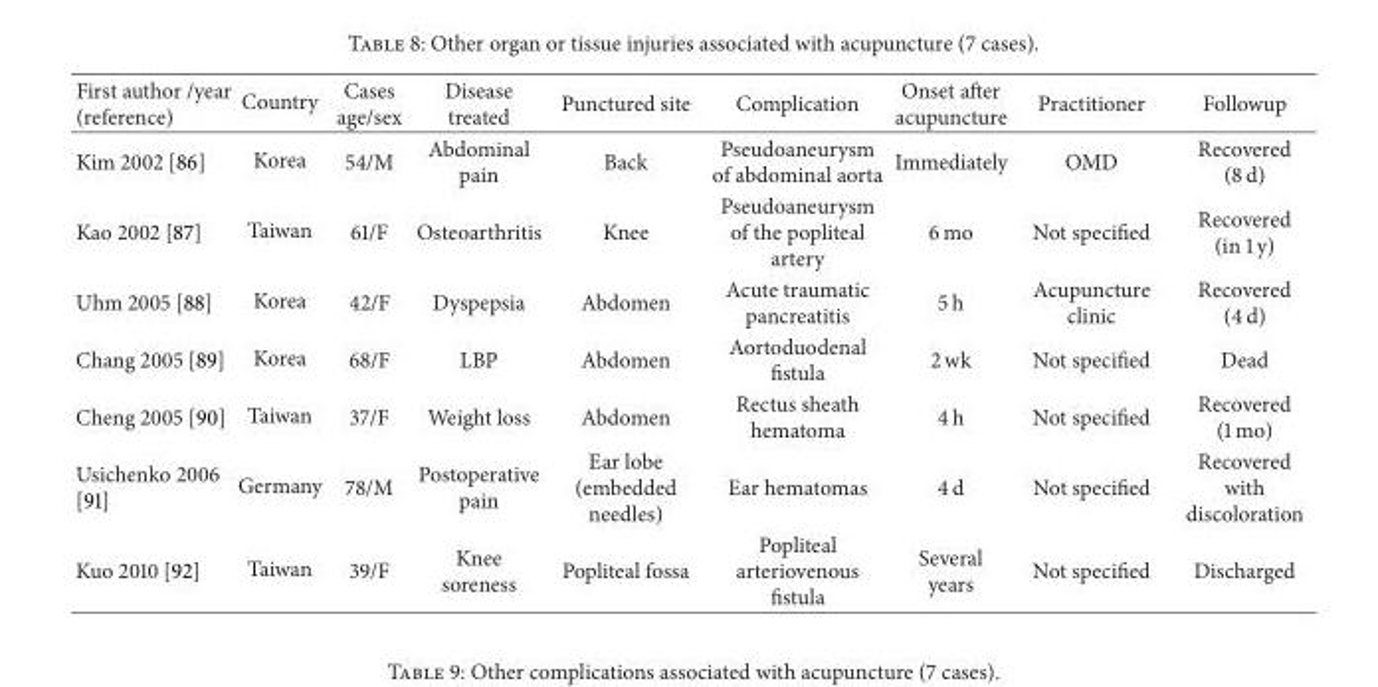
<table><thead><tr><td>First author /year (reference)</td><td>Country</td><td>Cases age/sex</td><td>Disease treated</td><td>Punctured site</td><td>Complication</td><td>Onset after acupuncture</td><td>Practitioner</td><td>Followup</td></tr></thead><tbody><tr><td>Kim 2002 [86]</td><td>Korea</td><td>54/M</td><td>Abdominal pain</td><td>Back</td><td>Pseudoaneurysm of abdominal aorta</td><td>Immediately</td><td>OMD</td><td>Recovered (8 d)</td></tr><tr><td>Kao 2002 [87]</td><td>Taiwan</td><td>61/F</td><td>Osteoarthritis</td><td>Knee</td><td>Pseudoaneurysm of the popliteal artery</td><td>6 mo</td><td>Not specified</td><td>Recovered (in 1 y)</td></tr><tr><td>Uhm 2005 [88]</td><td>Korea</td><td>42/F</td><td>Dyspepsia</td><td>Abdomen</td><td>Acute traumatic pancreatitis</td><td>5 h</td><td>Acupuncture clinic</td><td>Recovered (4 d)</td></tr><tr><td>Chang 2005 [89]</td><td>Korea</td><td>68/F</td><td>LBP</td><td>Abdomen</td><td>Aortoduodenal fistula</td><td>2 wk</td><td>Not specified</td><td>Dead</td></tr><tr><td>Cheng 2005 [90]</td><td>Taiwan</td><td>37/F</td><td>Weight loss</td><td>Abdomen</td><td>Rectus sheath hematoma</td><td>4 h</td><td>Not specified</td><td>Recovered (1 mo)</td></tr><tr><td>Usichenko 2006 [91]</td><td>Germany</td><td>78/M</td><td>Postoperative pain</td><td>Ear lobe (embedded needles)</td><td>Ear hematomas</td><td>4 d</td><td>Not specified</td><td>Recovered with discoloration</td></tr><tr><td>Kuo 2010 [92]</td><td>Taiwan</td><td>39/F</td><td>Knee soreness</td><td>Popliteal fossa</td><td>Popliteal arteriovenous fistula</td><td>Several years</td><td>Not specified</td><td>Discharged</td></tr></tbody></table>